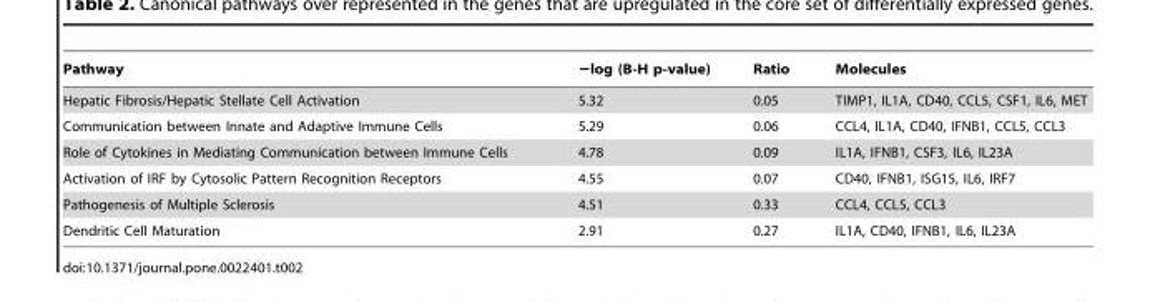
<table><thead><tr><td>Pathway</td><td>−log (B-H p-value)</td><td>Ratio</td><td>Molecules</td></tr></thead><tbody><tr><td>Hepatic Fibrosis/Hepatic Stellate Cell Activation</td><td>5.32</td><td>0.05</td><td>TIMP1, IL1A, CD40, CCL5, CSF1, IL6, MET</td></tr><tr><td>Communication between Innate and Adaptive Immune Cells</td><td>5.29</td><td>0.06</td><td>CCL4, IL1A, CD40, IFNB1, CCL5, CCL3</td></tr><tr><td>Role of Cytokines in Mediating Communication between Immune Cells</td><td>4.78</td><td>0.09</td><td>IL1A, IFNB1, CSF3, IL6, IL23A</td></tr><tr><td>Activation of IRF by Cytosolic Pattern Recognition Receptors</td><td>4.55</td><td>0.07</td><td>CD40, IFNB1, ISG15, IL6, IRF7</td></tr><tr><td>Pathogenesis of Multiple Sclerosis</td><td>4.51</td><td>0.33</td><td>CCL4, CCL5, CCL3</td></tr><tr><td>Dendritic Cell Maturation</td><td>2.91</td><td>0.27</td><td>IL1A, CD40, IFNB1, IL6, IL23A</td></tr></tbody></table>